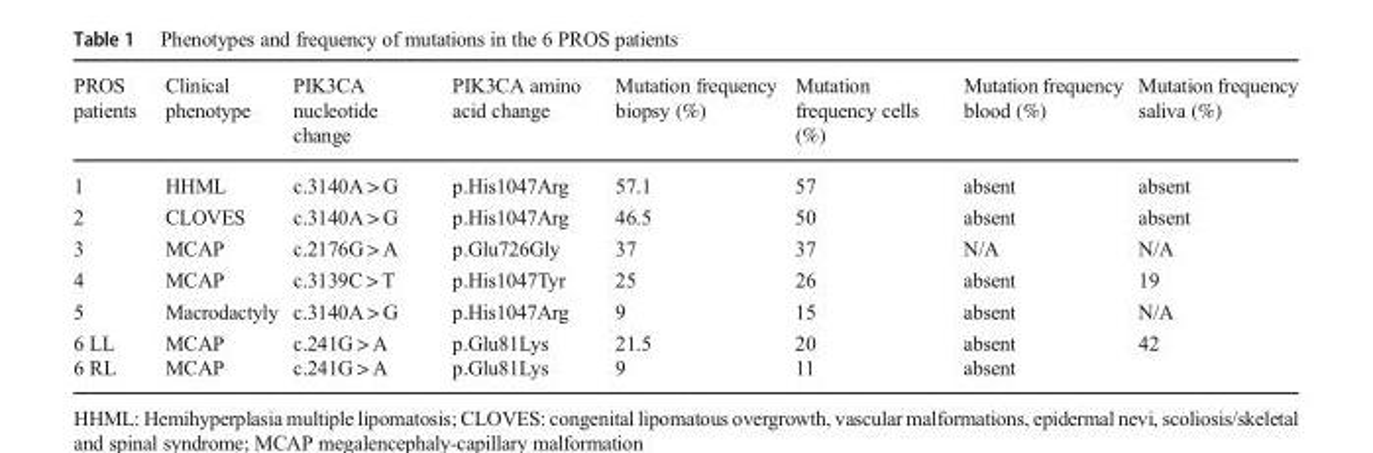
<table><thead><tr><td>PROS patients</td><td>Clinical phenotype</td><td>PIK3CA nucleotide change</td><td>PIK3CA amino acid change</td><td>Mutation frequency biopsy (%)</td><td>Mutation frequency cells (%)</td><td>Mutation frequency blood (%)</td><td>Mutation frequency saliva (%)</td></tr></thead><tbody><tr><td>1</td><td>HHML</td><td>c.3140A &gt; G</td><td>p.His1047Arg</td><td>57.1</td><td>57</td><td>absent</td><td>absent</td></tr><tr><td>2</td><td>CLOVES</td><td>c.3140A &gt; G</td><td>p.His1047Arg</td><td>46.5</td><td>50</td><td>absent</td><td>absent</td></tr><tr><td>3</td><td>MCAP</td><td>c.2176G &gt; A</td><td>p.Glu726Gly</td><td>37</td><td>37</td><td>N/A</td><td>N/A</td></tr><tr><td>4</td><td>MCAP</td><td>c.3139C &gt; T</td><td>p.His1047Tyr</td><td>25</td><td>26</td><td>absent</td><td>19</td></tr><tr><td>5</td><td>Macrodactyly</td><td>c.3140A &gt; G</td><td>p.His1047Arg</td><td>9</td><td>15</td><td>absent</td><td>N/A</td></tr><tr><td>6 LL</td><td>MCAP</td><td>c.241G &gt; A</td><td>p.Glu81Lys</td><td>21.5</td><td>20</td><td>absent</td><td rowspan="2">42</td></tr><tr><td>6 RL</td><td>MCAP</td><td>c.241G &gt; A</td><td>p.Glu81Lys</td><td>9</td><td>11</td><td>absent</td></tr></tbody></table>